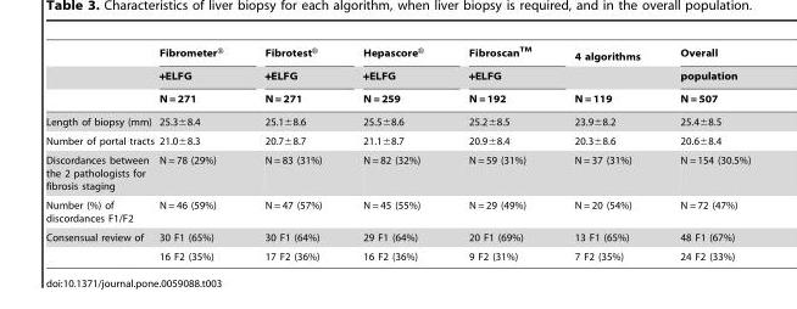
<table><thead><tr><td rowspan="3"></td><td rowspan="3">Fibrometer® +ELFG N = 271</td><td rowspan="3">Fibrotest® +ELFG N = 271</td><td rowspan="3">Hepascore® +ELFG N = 259</td><td rowspan="3">FibroscanTM +ELFG N = 192</td><td rowspan="3">4 algorithms N = 119</td><td rowspan="3">Overall population N = 507</td></tr><tr></tr><tr></tr></thead><tbody><tr><td>Length of biopsy (mm)</td><td>25.3±8.4</td><td>25.1±8.6</td><td>25.5±8.6</td><td>25.2±8.5</td><td>23.9±8.2</td><td>25.4±8.5</td></tr><tr><td>Number of portal tracts</td><td>21.0±8.3</td><td>20.7±8.7</td><td>21.1±8.7</td><td>20.9±8.4</td><td>20.3±8.6</td><td>20.6±8.4</td></tr><tr><td>Discordances between the 2 pathologists for fibrosis staging</td><td>N = 78 (29%)</td><td>N = 83 (31%)</td><td>N = 82 (32%)</td><td>N = 59 (31%)</td><td>N = 37 (31%)</td><td>N = 154 (30.5%)</td></tr><tr><td>Number (%) of discordances F1/F2</td><td>N = 46 (59%)</td><td>N = 47 (57%)</td><td>N = 45 (55%)</td><td>N = 29 (49%)</td><td>N = 20 (54%)</td><td>N = 72 (47%)</td></tr><tr><td rowspan="2">Consensual review of</td><td>30 F1 (65%)</td><td>30 F1 (64%)</td><td>29 F1 (64%)</td><td>20 F1 (69%)</td><td>13 F1 (65%)</td><td>48 F1 (67%)</td></tr><tr><td>16 F2 (35%)</td><td>17 F2 (36%)</td><td>16 F2 (36%)</td><td>9 F2 (31%)</td><td>7 F2 (35%)</td><td>24 F2 (33%)</td></tr></tbody></table>